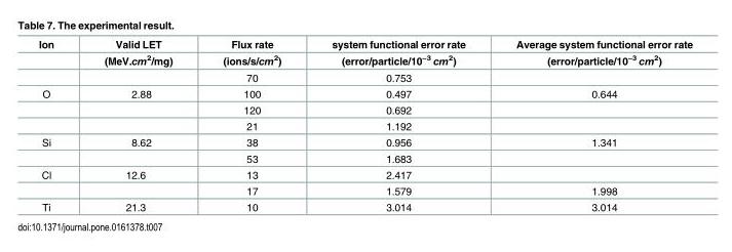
<table><thead><tr><td rowspan="2">Ion</td><td rowspan="2">Valid LET (MeV.cm<sup>2</sup>/mg)</td><td rowspan="2">Flux rate (ions/s/cm<sup>2</sup>)</td><td rowspan="2">system functional error rate (error/particle/10<sup>−3</sup> cm<sup>2</sup>)</td><td rowspan="2">Average system functional error rate (error/particle/10<sup>−3</sup> cm<sup>2</sup>)</td></tr><tr></tr></thead><tbody><tr><td></td><td></td><td>70</td><td>0.753</td><td></td></tr><tr><td rowspan="3">O</td><td>2.88</td><td>100</td><td>0.497</td><td>0.644</td></tr><tr><td></td><td>120</td><td>0.692</td><td></td></tr><tr><td></td><td>21</td><td>1.192</td><td></td></tr><tr><td rowspan="2">Si</td><td>8.62</td><td>38</td><td>0.956</td><td>1.341</td></tr><tr><td></td><td>53</td><td>1.683</td><td></td></tr><tr><td rowspan="2">Cl</td><td>12.6</td><td>13</td><td>2.417</td><td></td></tr><tr><td></td><td>17</td><td>1.579</td><td>1.998</td></tr><tr><td>Ti</td><td>21.3</td><td>10</td><td>3.014</td><td>3.014</td></tr></tbody></table>